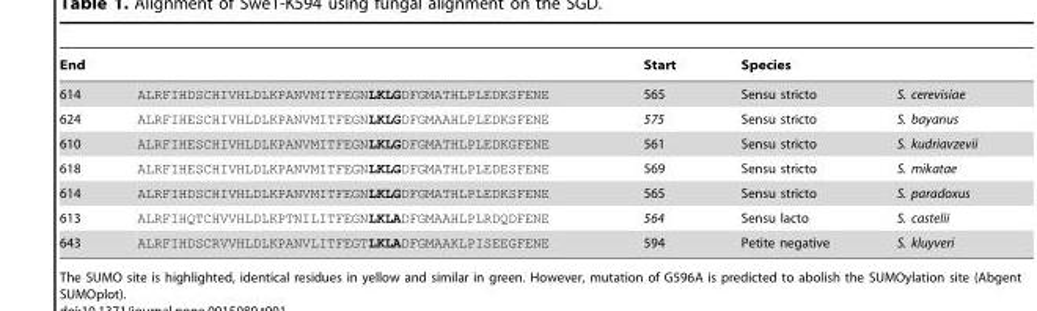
<table><thead><tr><td colspan="2">End</td><td rowspan="2">Start 565</td><td rowspan="2">Species Sensu stricto</td><td rowspan="2">S. cerevisiae</td></tr><tr><td>614</td><td>ALRFIHDSCHIVHLDLKPANVMITFEGNLKLGDFGMATHLPLEDKSFENE</td></tr></thead><tbody><tr><td>624</td><td>ALRFIHESCHIVHLDLKPANVMITFEGNLKLGDFGMAAHLPLEDKSFENE</td><td>575</td><td>Sensu stricto</td><td>S. bayanus</td></tr><tr><td>610</td><td>ALRFIHESCHIVHLDLKPANVMITFEGNLKLGDFGMATHLPLEDKGFENE</td><td>561</td><td>Sensu stricto</td><td>S. kudriavzevii</td></tr><tr><td>618</td><td>ALRFIHESCHIVHLDLKPANVMITFEGNLKLGDFGMATHLPLEDESFENE</td><td>569</td><td>Sensu stricto</td><td>S. mikatae</td></tr><tr><td>614</td><td>ALRFIHDSCHIVHLDLKPANVMITFEGNLKLGDFGMATHLPLEDKSFENE</td><td>565</td><td>Sensu stricto</td><td>S. paradoxus</td></tr><tr><td>613</td><td>ALRFIHQTCHVVHLDLKPTNILITFEGNLKLADFGMAAHLPLRDQDFENE</td><td>564</td><td>Sensu lacto</td><td>S. castelii</td></tr><tr><td>643</td><td>ALRFIHDSCRVVHLDLKPANVLITFEGTLKLADFGMAAKLPISEEGFENE</td><td>594</td><td>Petite negative</td><td>S. kluyveri</td></tr></tbody></table>